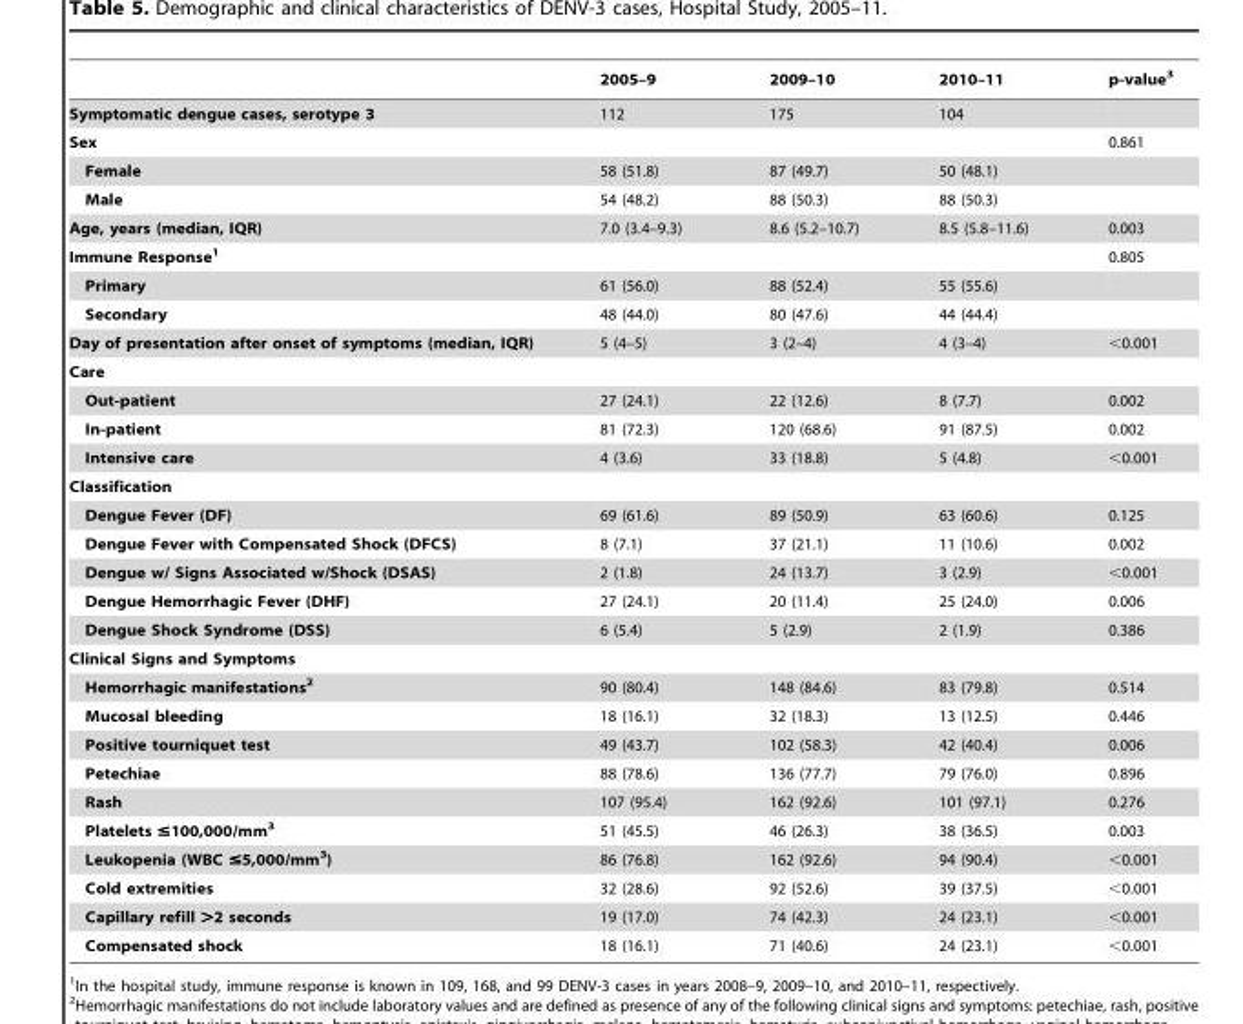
<table><thead><tr><td></td><td>2005–9</td><td>2009–10</td><td>2010–11</td><td>p-value<sup>3</sup></td></tr></thead><tbody><tr><td>Symptomatic dengue cases, serotype 3</td><td>112</td><td>175</td><td>104</td><td></td></tr><tr><td>Sex</td><td></td><td></td><td></td><td>0.861</td></tr><tr><td>Female</td><td>58 (51.8)</td><td>87 (49.7)</td><td>50 (48.1)</td><td></td></tr><tr><td>Male</td><td>54 (48.2)</td><td>88 (50.3)</td><td>88 (50.3)</td><td></td></tr><tr><td>Age, years (median, IQR)</td><td>7.0 (3.4–9.3)</td><td>8.6 (5.2–10.7)</td><td>8.5 (5.8–11.6)</td><td>0.003</td></tr><tr><td>Immune Response1</td><td></td><td></td><td></td><td>0.805</td></tr><tr><td>Primary</td><td>61 (56.0)</td><td>88 (52.4)</td><td>55 (55.6)</td><td></td></tr><tr><td>Secondary</td><td>48 (44.0)</td><td>80 (47.6)</td><td>44 (44.4)</td><td></td></tr><tr><td>Day of presentation after onset of symptoms (median, IQR)</td><td>5 (4–5)</td><td>3 (2–4)</td><td>4 (3–4)</td><td>&lt;0.001</td></tr><tr><td colspan="5">Care</td></tr><tr><td>Out-patient</td><td>27 (24.1)</td><td>22 (12.6)</td><td>8 (7.7)</td><td>0.002</td></tr><tr><td>In-patient</td><td>81 (72.3)</td><td>120 (68.6)</td><td>91 (87.5)</td><td>0.002</td></tr><tr><td>Intensive care</td><td>4 (3.6)</td><td>33 (18.8)</td><td>5 (4.8)</td><td>&lt;0.001</td></tr><tr><td colspan="5">Classification</td></tr><tr><td>Dengue Fever (DF)</td><td>69 (61.6)</td><td>89 (50.9)</td><td>63 (60.6)</td><td>0.125</td></tr><tr><td>Dengue Fever with Compensated Shock (DFCS)</td><td>8 (7.1)</td><td>37 (21.1)</td><td>11 (10.6)</td><td>0.002</td></tr><tr><td>Dengue w/ Signs Associated w/Shock (DSAS)</td><td>2 (1.8)</td><td>24 (13.7)</td><td>3 (2.9)</td><td>&lt;0.001</td></tr><tr><td>Dengue Hemorrhagic Fever (DHF)</td><td>27 (24.1)</td><td>20 (11.4)</td><td>25 (24.0)</td><td>0.006</td></tr><tr><td>Dengue Shock Syndrome (DSS)</td><td>6 (5.4)</td><td>5 (2.9)</td><td>2 (1.9)</td><td>0.386</td></tr><tr><td colspan="5">Clinical Signs and Symptoms</td></tr><tr><td>Hemorrhagic manifestations2</td><td>90 (80.4)</td><td>148 (84.6)</td><td>83 (79.8)</td><td>0.514</td></tr><tr><td>Mucosal bleeding</td><td>18 (16.1)</td><td>32 (18.3)</td><td>13 (12.5)</td><td>0.446</td></tr><tr><td>Positive tourniquet test</td><td>49 (43.7)</td><td>102 (58.3)</td><td>42 (40.4)</td><td>0.006</td></tr><tr><td>Petechiae</td><td>88 (78.6)</td><td>136 (77.7)</td><td>79 (76.0)</td><td>0.896</td></tr><tr><td>Rash</td><td>107 (95.4)</td><td>162 (92.6)</td><td>101 (97.1)</td><td>0.276</td></tr><tr><td>Platelets ≤100,000/mm<sup>3</sup></td><td>51 (45.5)</td><td>46 (26.3)</td><td>38 (36.5)</td><td>0.003</td></tr><tr><td>Leukopenia (WBC ≤5,000/mm<sup>3</sup>)</td><td>86 (76.8)</td><td>162 (92.6)</td><td>94 (90.4)</td><td>&lt;0.001</td></tr><tr><td>Cold extremities</td><td>32 (28.6)</td><td>92 (52.6)</td><td>39 (37.5)</td><td>&lt;0.001</td></tr><tr><td>Capillary refill &gt;2 seconds</td><td>19 (17.0)</td><td>74 (42.3)</td><td>24 (23.1)</td><td>&lt;0.001</td></tr><tr><td>Compensated shock</td><td>18 (16.1)</td><td>71 (40.6)</td><td>24 (23.1)</td><td>&lt;0.001</td></tr></tbody></table>